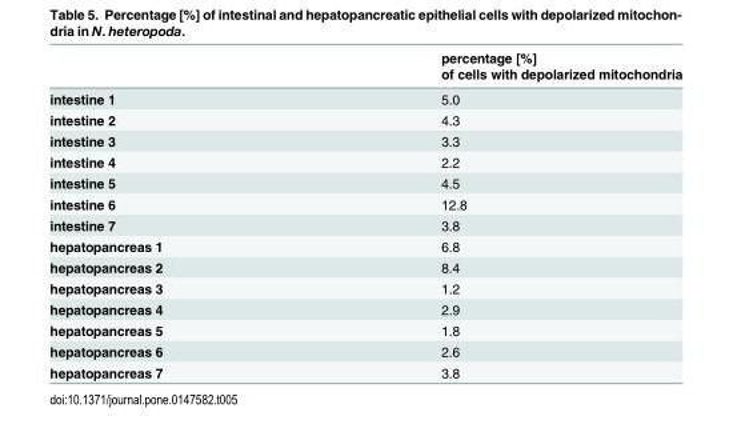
<table><thead><tr><td rowspan="2"></td><td rowspan="2">percentage [%] of cells with depolarized mitochondria</td></tr><tr></tr></thead><tbody><tr><td>intestine 1</td><td>5.0</td></tr><tr><td>intestine 2</td><td>4.3</td></tr><tr><td>intestine 3</td><td>3.3</td></tr><tr><td>intestine 4</td><td>2.2</td></tr><tr><td>intestine 5</td><td>4.5</td></tr><tr><td>intestine 6</td><td>12.8</td></tr><tr><td>intestine 7</td><td>3.8</td></tr><tr><td>hepatopancreas 1</td><td>6.8</td></tr><tr><td>hepatopancreas 2</td><td>8.4</td></tr><tr><td>hepatopancreas 3</td><td>1.2</td></tr><tr><td>hepatopancreas 4</td><td>2.9</td></tr><tr><td>hepatopancreas 5</td><td>1.8</td></tr><tr><td>hepatopancreas 6</td><td>2.6</td></tr><tr><td>hepatopancreas 7</td><td>3.8</td></tr></tbody></table>